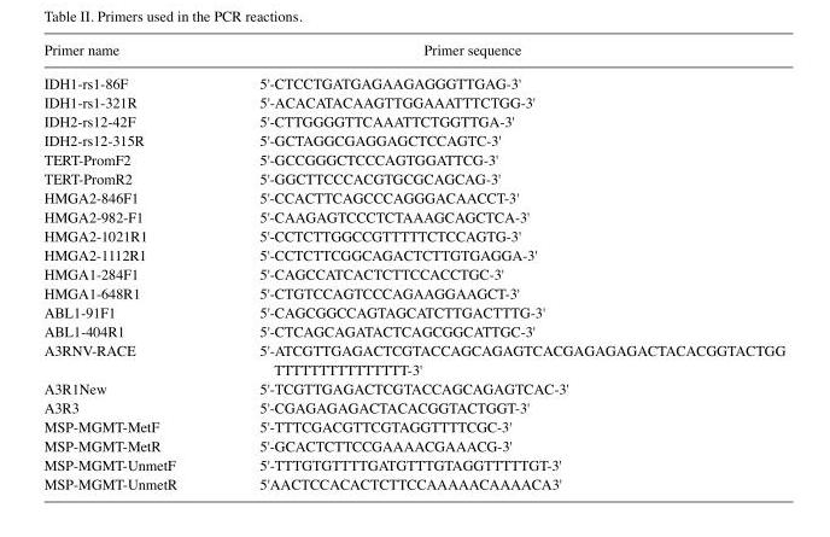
<table><thead><tr><td>Primer name</td><td>Primer sequence</td></tr></thead><tbody><tr><td>IDH1-rs1-86F</td><td>5&#x27;-CTCCTGATGAGAAGAGGGTTGAG-3&#x27;</td></tr><tr><td>IDH1-rs1-321R</td><td>5&#x27;-ACACATACAAGTTGGAAATTTCTGG-3&#x27;</td></tr><tr><td>IDH2-rs12-42F</td><td>5&#x27;-CTTGGGGTTCAAATTCTGGTTGA-3&#x27;</td></tr><tr><td>IDH2-rs12-315R</td><td>5&#x27;-GCTAGGCGAGGAGCTCCAGTC-3&#x27;</td></tr><tr><td>TERT-PromF2</td><td>5&#x27;-GCCGGGCTCCCAGTGGATTCG-3&#x27;</td></tr><tr><td>TERT-PromR2</td><td>5&#x27;-GGCTTCCCACGTGCGCAGCAG-3&#x27;</td></tr><tr><td>HMGA2-846F1</td><td>5&#x27;-CCACTTCAGCCCAGGGACAACCT-3&#x27;</td></tr><tr><td>HMGA2-982-F1</td><td>5&#x27;-CAAGAGTCCCTCTAAAGCAGCTCA-3&#x27;</td></tr><tr><td>HMGA2-1021R1</td><td>5&#x27;-CCTCTTGGCCGTTTTTCTCCAGTG-3&#x27;</td></tr><tr><td>HMGA2-1112R1</td><td>5&#x27;-CCTCTTCGGCAGACTCTTGTGAGGA-3&#x27;</td></tr><tr><td>HMGA1-284F1</td><td>5&#x27;-CAGCCATCACTCTTCCACCTGC-3&#x27;</td></tr><tr><td>HMGA1-648R1</td><td>5&#x27;-CTGTCCAGTCCCAGAAGGAAGCT-3&#x27;</td></tr><tr><td>AbL1-91F1</td><td>5&#x27;-CAGCGGCCAGTAGCATCTTGACTTTG-3&#x27;</td></tr><tr><td>AbL1-404R1</td><td>5&#x27;-CTCAGCAGATACTCAGCGGCATTGC-3&#x27;</td></tr><tr><td>A3RNV-RACE</td><td>5&#x27;-ATCGTTGAGACTCGTACCAGCAGAGTCACGAGAGAGACTACACGGTACTGG TTTTTTTTTTTTTTT-3&#x27;</td></tr><tr><td>A3R1New</td><td>5&#x27;-TCGTTGAGACTCGTACCAGCAGAGTCAC-3&#x27;</td></tr><tr><td>A3R3</td><td>5&#x27;-CGAGAGAGACTACACGGTACTGGT-3&#x27;</td></tr><tr><td>MSP-MGMT-MetF</td><td>5&#x27;-TTTCGACGTTCGTAGGTTTTCGC-3&#x27;</td></tr><tr><td>MSP-MGMT-MetR</td><td>5&#x27;-GCACTCTTCCGAAAACGAAACG-3&#x27;</td></tr><tr><td>MSP-MGMT-UnmetF</td><td>5&#x27;-TTTGTGTTTTGATGTTTGTAGGTTTTTGT-3&#x27;</td></tr><tr><td>MSP-MGMT-UnmetR</td><td>5&#x27;AACTCCACACTCTTCCAAAAACAAAACA3&#x27;</td></tr></tbody></table>